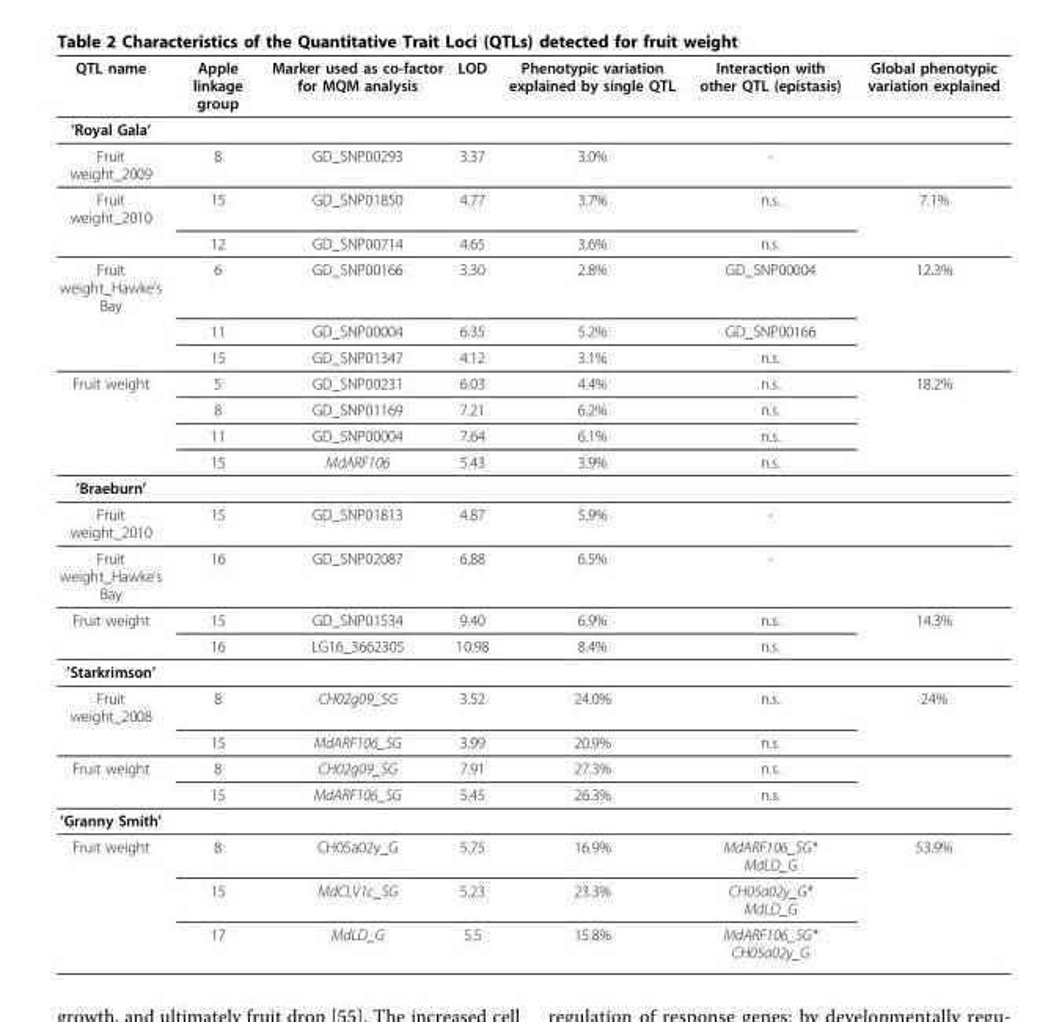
<table><thead><tr><td>QTL name</td><td>Apple linkage group</td><td>Marker used as co-factor for MQM analysis</td><td>LOD</td><td>Phenotypic variation explained by single QTL</td><td>Interaction with other QTL (epistasis)</td><td>Global phenotypic variation explained</td></tr></thead><tbody><tr><td colspan="7">’Royal Gala’</td></tr><tr><td>Fruit weight_2009</td><td>8</td><td>GD_SNP00293</td><td>3.37</td><td>3.0%</td><td>-</td><td></td></tr><tr><td rowspan="2">Fruit weight_2010</td><td>15</td><td>GD_SNP01850</td><td>4.77</td><td>3.7%</td><td>n.s.</td><td>7.1%</td></tr><tr><td>12</td><td>GD_SNP00714</td><td>4.65</td><td>3.6%</td><td>n.s.</td><td></td></tr><tr><td rowspan="3">Fruit weight_Hawke’s Bay</td><td>6</td><td>GD_SNP00166</td><td>3.30</td><td>2.8%</td><td>GD_SNP00004</td><td>12.3%</td></tr><tr><td>11</td><td>GD_SNP00004</td><td>6.35</td><td>5.2%</td><td>GD_SNP00166</td><td></td></tr><tr><td>15</td><td>GD_SNP01347</td><td>4.12</td><td>3.1%</td><td>n.s.</td><td></td></tr><tr><td rowspan="4">Fruit weight</td><td>5</td><td>GD_SNP00231</td><td>6.03</td><td>4.4%</td><td>n.s.</td><td>18.2%</td></tr><tr><td>8</td><td>GD_SNP01169</td><td>7.21</td><td>6.2%</td><td>n.s.</td><td></td></tr><tr><td>11</td><td>GD_SNP00004</td><td>7.64</td><td>6.1%</td><td>n.s.</td><td></td></tr><tr><td>15</td><td>MdARF106</td><td>5.43</td><td>3.9%</td><td>n.s.</td><td></td></tr><tr><td colspan="7">’Braeburn’</td></tr><tr><td>Fruit weight_2010</td><td>15</td><td>GD_SNP01813</td><td>4.87</td><td>5.9%</td><td>-</td><td></td></tr><tr><td>Fruit weight_Hawke’s Bay</td><td>16</td><td>GD_SNP02087</td><td>6.88</td><td>6.5%</td><td>-</td><td></td></tr><tr><td rowspan="2">Fruit weight</td><td>15</td><td>GD_SNP01534</td><td>9.40</td><td>6.9%</td><td>n.s.</td><td>14.3%</td></tr><tr><td>16</td><td>LG16_3662305</td><td>10.98</td><td>8.4%</td><td>n.s.</td><td></td></tr><tr><td colspan="7">’Starkrimson’</td></tr><tr><td rowspan="2">Fruit weight_2008</td><td>8</td><td>CH02g09_SG</td><td>3.52</td><td>24.0%</td><td>n.s.</td><td>24%</td></tr><tr><td>15</td><td>MdARF106_SG</td><td>3.99</td><td>20.9%</td><td>n.s.</td><td></td></tr><tr><td rowspan="2">Fruit weight</td><td>8</td><td>CH02g09_SG</td><td>7.91</td><td>27.3%</td><td>n.s.</td><td></td></tr><tr><td>15</td><td>MdARF106_SG</td><td>5.45</td><td>26.3%</td><td>n.s.</td><td></td></tr><tr><td colspan="7">’Granny Smith’</td></tr><tr><td rowspan="3">Fruit weight</td><td>8</td><td>CH05a02y_G</td><td>5.75</td><td>16.9%</td><td>MdARF106_SG* MdLD_G</td><td>53.9%</td></tr><tr><td>15</td><td>MdCLV1c_SG</td><td>5.23</td><td>23.3%</td><td>CH05a02y_G* MdLD_G</td><td></td></tr><tr><td>17</td><td>MdLD_G</td><td>5.5</td><td>15.8%</td><td>MdARF106_SG* CH05a02y_G</td><td></td></tr></tbody></table>